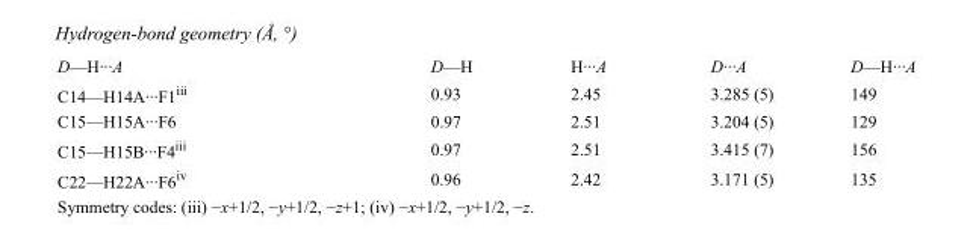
<table><tbody><tr><td>D—H···A</td><td>D—H</td><td>H···A</td><td>D···A</td><td>D—H···A</td></tr><tr><td>C14—H14A···F1<sup>iii</sup></td><td>0.93</td><td>2.45</td><td>3.285 (5)</td><td>149</td></tr><tr><td>C15—H15A···F6</td><td>0.97</td><td>2.51</td><td>3.204 (5)</td><td>129</td></tr><tr><td>C15—H15B···F4<sup>iii</sup></td><td>0.97</td><td>2.51</td><td>3.415 (7)</td><td>156</td></tr><tr><td>C22—H22A···F6<sup>iv</sup></td><td>0.96</td><td>2.42</td><td>3.171 (5)</td><td>135</td></tr></tbody></table>